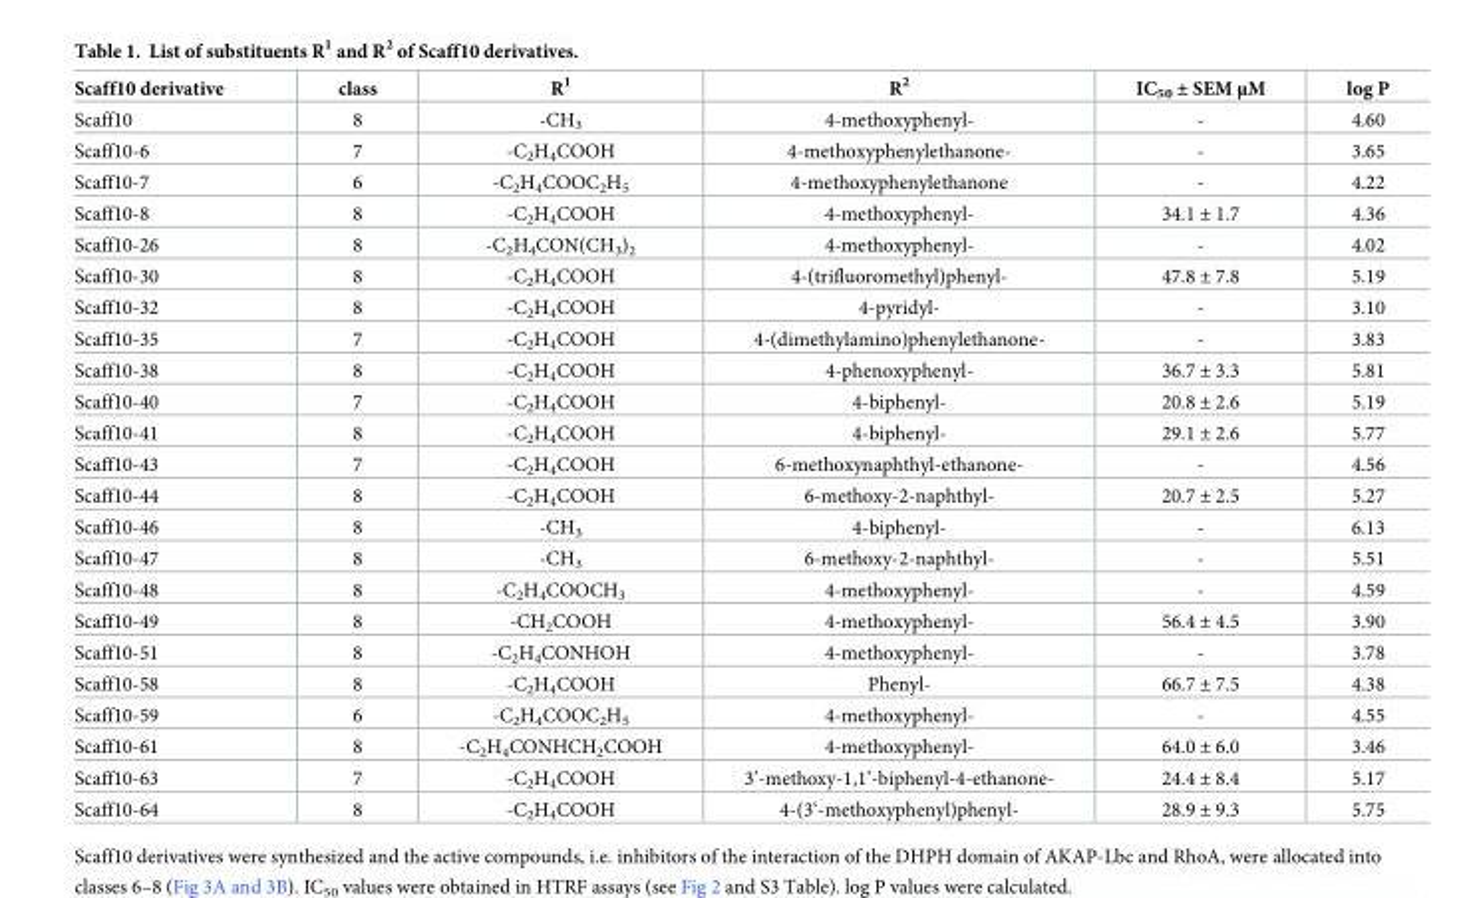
<table><thead><tr><td>Scaff10 derivative</td><td>class</td><td>R<sup>1</sup></td><td>R<sup>2</sup></td><td>IC<sub>50</sub> ± SEM μM</td><td>log P</td></tr></thead><tbody><tr><td>Scaff10</td><td>8</td><td>-CH<sub>3</sub></td><td>4-methoxyphenyl-</td><td>-</td><td>4.60</td></tr><tr><td>Scaff10-6</td><td>7</td><td>-C<sub>2</sub>H<sub>4</sub>COOH</td><td>4-methoxyphenylethanone-</td><td>-</td><td>3.65</td></tr><tr><td>Scaff10-7</td><td>6</td><td>-C<sub>2</sub>H<sub>4</sub>COOC<sub>2</sub>H<sub>5</sub></td><td>4-methoxyphenylethanone</td><td>-</td><td>4.22</td></tr><tr><td>Scaff10-8</td><td>8</td><td>-C<sub>2</sub>H<sub>4</sub>COOH</td><td>4-methoxyphenyl-</td><td>34.1 ± 1.7</td><td>4.36</td></tr><tr><td>Scaff10-26</td><td>8</td><td>-C<sub>2</sub>H<sub>4</sub>CON(CH<sub>3</sub>)<sub>2</sub></td><td>4-methoxyphenyl-</td><td>-</td><td>4.02</td></tr><tr><td>Scaff10-30</td><td>8</td><td>-C<sub>2</sub>H<sub>4</sub>COOH</td><td>4-(trifluoromethyl)phenyl-</td><td>47.8 ± 7.8</td><td>5.19</td></tr><tr><td>Scaff10-32</td><td>8</td><td>-C<sub>2</sub>H<sub>4</sub>COOH</td><td>4-pyridyl-</td><td>-</td><td>3.10</td></tr><tr><td>Scaff10-35</td><td>7</td><td>-C<sub>2</sub>H<sub>4</sub>COOH</td><td>4-(dimethylamino)phenylethanone-</td><td>-</td><td>3.83</td></tr><tr><td>Scaff10-38</td><td>8</td><td>-C<sub>2</sub>H<sub>4</sub>COOH</td><td>4-phenoxyphenyl-</td><td>36.7 ± 3.3</td><td>5.81</td></tr><tr><td>Scaff10-40</td><td>7</td><td>-C<sub>2</sub>H<sub>4</sub>COOH</td><td>4-biphenyl-</td><td>20.8 ± 2.6</td><td>5.19</td></tr><tr><td>Scaff10-41</td><td>8</td><td>-C<sub>2</sub>H<sub>4</sub>COOH</td><td>4-biphenyl-</td><td>29.1 ± 2.6</td><td>5.77</td></tr><tr><td>Scaff10-43</td><td>7</td><td>-C<sub>2</sub>H<sub>4</sub>COOH</td><td>6-methoxynaphthyl-ethanone-</td><td>-</td><td>4.56</td></tr><tr><td>Scaff10-44</td><td>8</td><td>-C<sub>2</sub>H<sub>4</sub>COOH</td><td>6-methoxy-2-naphthyl-</td><td>20.7 ± 2.5</td><td>5.27</td></tr><tr><td>Scaff10-46</td><td>8</td><td>-CH<sub>3</sub></td><td>4-biphenyl-</td><td>-</td><td>6.13</td></tr><tr><td>Scaff10-47</td><td>8</td><td>-CH<sub>3</sub></td><td>6-methoxy-2-naphthyl-</td><td>-</td><td>5.51</td></tr><tr><td>Scaff10-48</td><td>8</td><td>-C<sub>2</sub>H<sub>4</sub>COOCH<sub>3</sub></td><td>4-methoxyphenyl-</td><td>-</td><td>4.59</td></tr><tr><td>Scaff10-49</td><td>8</td><td>-CH<sub>2</sub>COOH</td><td>4-methoxyphenyl-</td><td>56.4 ± 4.5</td><td>3.90</td></tr><tr><td>Scaff10-51</td><td>8</td><td>-C<sub>2</sub>H<sub>4</sub>CONHOH</td><td>4-methoxyphenyl-</td><td>-</td><td>3.78</td></tr><tr><td>Scaff10-58</td><td>8</td><td>-C<sub>2</sub>H<sub>4</sub>COOH</td><td>Phenyl-</td><td>66.7 ± 7.5</td><td>4.38</td></tr><tr><td>Scaff10-59</td><td>6</td><td>-C<sub>2</sub>H<sub>4</sub>COOC<sub>2</sub>H<sub>5</sub></td><td>4-methoxyphenyl-</td><td>-</td><td>4.55</td></tr><tr><td>Scaff10-61</td><td>8</td><td>-C<sub>2</sub>H<sub>4</sub>CONHCH<sub>2</sub>COOH</td><td>4-methoxyphenyl-</td><td>64.0 ± 6.0</td><td>3.46</td></tr><tr><td>Scaff10-63</td><td>7</td><td>-C<sub>2</sub>H<sub>4</sub>COOH</td><td>3’-methoxy-1,1’-biphenyl-4-ethanone-</td><td>24.4 ± 8.4</td><td>5.17</td></tr><tr><td>Scaff10-64</td><td>8</td><td>-C<sub>2</sub>H<sub>4</sub>COOH</td><td>4-(3‘-methoxyphenyl)phenyl-</td><td>28.9 ± 9.3</td><td>5.75</td></tr></tbody></table>